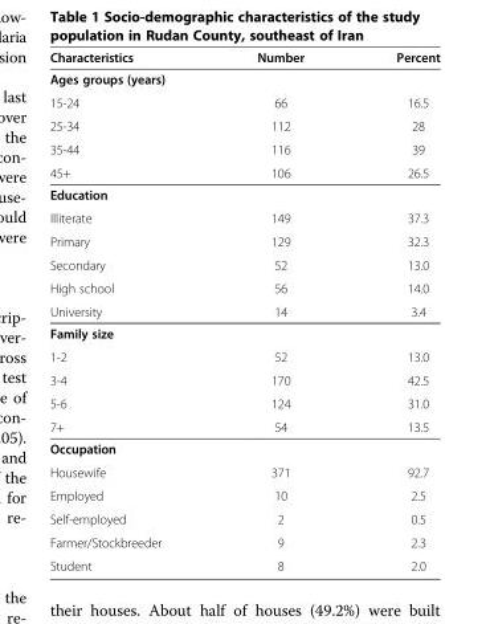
<table><thead><tr><td>Characteristics</td><td>Number</td><td>Percent</td></tr></thead><tbody><tr><td colspan="3">Ages groups (years)</td></tr><tr><td>15-24</td><td>66</td><td>16.5</td></tr><tr><td>25-34</td><td>112</td><td>28</td></tr><tr><td>35-44</td><td>116</td><td>39</td></tr><tr><td>45+</td><td>106</td><td>26.5</td></tr><tr><td colspan="3">Education</td></tr><tr><td>Illiterate</td><td>149</td><td>37.3</td></tr><tr><td>Primary</td><td>129</td><td>32.3</td></tr><tr><td>Secondary</td><td>52</td><td>13.0</td></tr><tr><td>High school</td><td>56</td><td>14.0</td></tr><tr><td>University</td><td>14</td><td>3.4</td></tr><tr><td colspan="3">Family size</td></tr><tr><td>1-2</td><td>52</td><td>13.0</td></tr><tr><td>3-4</td><td>170</td><td>42.5</td></tr><tr><td>5-6</td><td>124</td><td>31.0</td></tr><tr><td>7+</td><td>54</td><td>13.5</td></tr><tr><td colspan="3">Occupation</td></tr><tr><td>Housewife</td><td>371</td><td>92.7</td></tr><tr><td>Employed</td><td>10</td><td>2.5</td></tr><tr><td>Self-employed</td><td>2</td><td>0.5</td></tr><tr><td>Farmer/Stockbreeder</td><td>9</td><td>2.3</td></tr><tr><td>Student</td><td>8</td><td>2.0</td></tr></tbody></table>